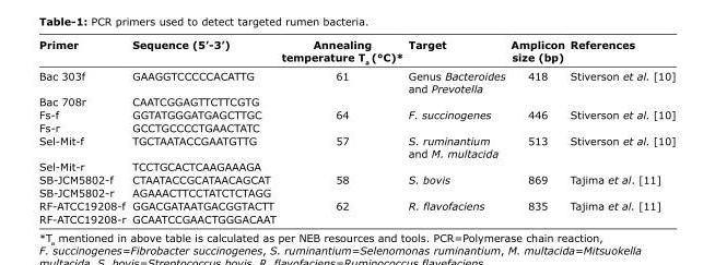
<table><thead><tr><td>Primer</td><td>Sequence (5’-3’)</td><td>Annealing temperature T<sub>a</sub> (°C)*</td><td>Target</td><td>Amplicon size (bp)</td><td>References</td></tr></thead><tbody><tr><td>Bac 303f</td><td>GAAGGTCCCCCACATTG</td><td>61</td><td>Genus Bacteroides and Prevotella</td><td>418</td><td>Stiverson et al. [10]</td></tr><tr><td>Bac 708r</td><td>CAATCGGAGTTCTTCGTG</td><td></td><td></td><td></td><td></td></tr><tr><td>Fs-f</td><td>GGTATGGGATGAGCTTGC</td><td>64</td><td>F. succinogenes</td><td>446</td><td>Stiverson et al. [10]</td></tr><tr><td>Fs-r</td><td>GCCTGCCCCTGAACTATC</td><td></td><td></td><td></td><td></td></tr><tr><td>Sel-Mit-f</td><td>TGCTAATACCGAATGTTG</td><td>57</td><td>S. ruminantium and M. multacida</td><td>513</td><td>Stiverson et al. [10]</td></tr><tr><td>Sel-Mit-r</td><td>TCCTGCACTCAAGAAAGA</td><td></td><td></td><td></td><td></td></tr><tr><td>SB-JCM5802-f</td><td>CTAATACCGCATAACAGCAT</td><td>58</td><td>S. bovis</td><td>869</td><td>Tajima et al. [11]</td></tr><tr><td>SB-JCM5802-r</td><td>AGAAACTTCCTATCTCTAGG</td><td></td><td></td><td></td><td></td></tr><tr><td>RF-ATCC19208-f</td><td>GGACGATAATGACGGTACTT</td><td>62</td><td>R. flavofaciens</td><td>835</td><td>Tajima et al. [11]</td></tr><tr><td>RF-ATCC19208-r</td><td>GCAATCCGAACTGGGACAAT</td><td></td><td></td><td></td><td></td></tr></tbody></table>